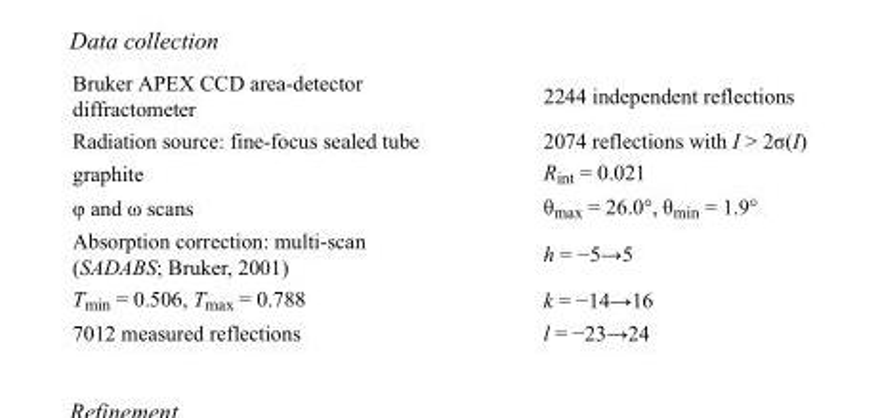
<table><tbody><tr><td>Bruker APEX CCD area-detector diffractometer</td><td>2244 independent reflections</td></tr><tr><td>Radiation source: fine-focus sealed tube</td><td>2074 reflections with I &gt; 2σ(I)</td></tr><tr><td>graphite</td><td>R<sub>int</sub> = 0.021</td></tr><tr><td>φ and ω scans</td><td>θ<sub>max</sub> = 26.0°, θ<sub>min</sub> = 1.9°</td></tr><tr><td>Absorption correction: multi-scan (SADABS; Bruker, 2001)</td><td>h = −5→5</td></tr><tr><td>T<sub>min</sub> = 0.506, T<sub>max</sub> = 0.788</td><td>k = −14→16</td></tr><tr><td>7012 measured reflections</td><td>l = −23→24</td></tr></tbody></table>